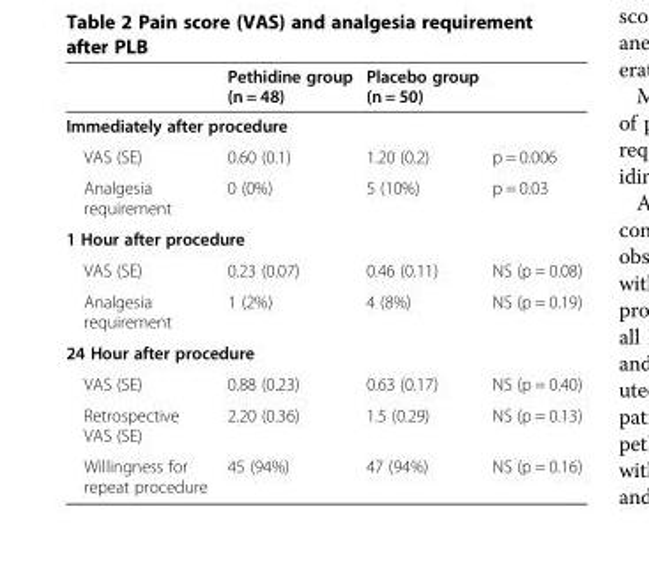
<table><thead><tr><td></td><td>Pethidine group (n = 48)</td><td>Placebo group (n = 50)</td><td></td></tr></thead><tbody><tr><td colspan="4">Immediately after procedure</td></tr><tr><td>VAS (SE)</td><td>0.60 (0.1)</td><td>1.20 (0.2)</td><td>p = 0.006</td></tr><tr><td>Analgesia requirement</td><td>0 (0%)</td><td>5 (10%)</td><td>p = 0.03</td></tr><tr><td colspan="4">1 Hour after procedure</td></tr><tr><td>VAS (SE)</td><td>0.23 (0.07)</td><td>0.46 (0.11)</td><td>NS (p = 0.08)</td></tr><tr><td>Analgesia requirement</td><td>1 (2%)</td><td>4 (8%)</td><td>NS (p = 0.19)</td></tr><tr><td colspan="4">24 Hour after procedure</td></tr><tr><td>VAS (SE)</td><td>0.88 (0.23)</td><td>0.63 (0.17)</td><td>NS (p = 0.40)</td></tr><tr><td>Retrospective VAS (SE)</td><td>2.20 (0.36)</td><td>1.5 (0.29)</td><td>NS (p = 0.13)</td></tr><tr><td>Willingness for repeat procedure</td><td>45 (94%)</td><td>47 (94%)</td><td>NS (p = 0.16)</td></tr></tbody></table>